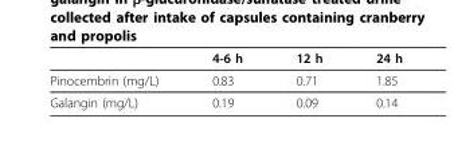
<table><thead><tr><td></td><td>4-6 h</td><td>12 h</td><td>24 h</td></tr></thead><tbody><tr><td>Pinocembrin (mg/L)</td><td>0.83</td><td>0.71</td><td>1.85</td></tr><tr><td>Galangin (mg/L)</td><td>0.19</td><td>0.09</td><td>0.14</td></tr></tbody></table>